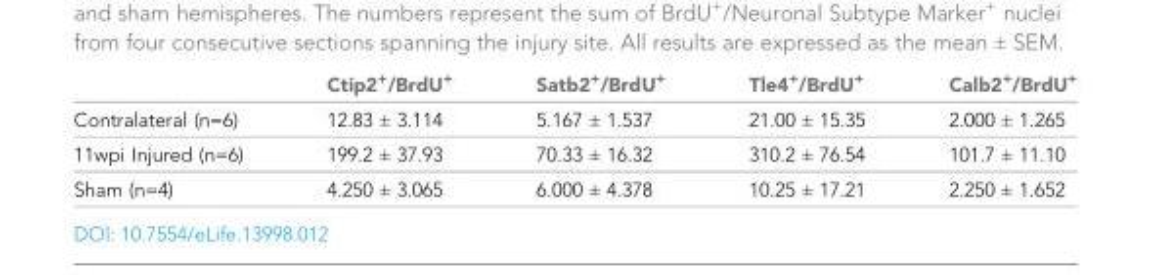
<table><thead><tr><td></td><td>Ctip2<sup>+</sup>/BrdU<sup>+</sup></td><td>Satb2<sup>+</sup>/BrdU<sup>+</sup></td><td>Tle4<sup>+</sup>/BrdU<sup>+</sup></td><td>Calb2<sup>+</sup>/BrdU<sup>+</sup></td></tr></thead><tbody><tr><td>Contralateral (n=6)</td><td>12.83 ± 3.114</td><td>5.167 ± 1.537</td><td>21.00 ± 15.35</td><td>2.000 ± 1.265</td></tr><tr><td>11wpi Injured (n=6)</td><td>199.2 ± 37.93</td><td>70.33 ± 16.32</td><td>310.2 ± 76.54</td><td>101.7 ± 11.10</td></tr><tr><td>Sham (n=4)</td><td>4.250 ± 3.065</td><td>6.000 ± 4.378</td><td>10.25 ± 17.21</td><td>2.250 ± 1.652</td></tr></tbody></table>